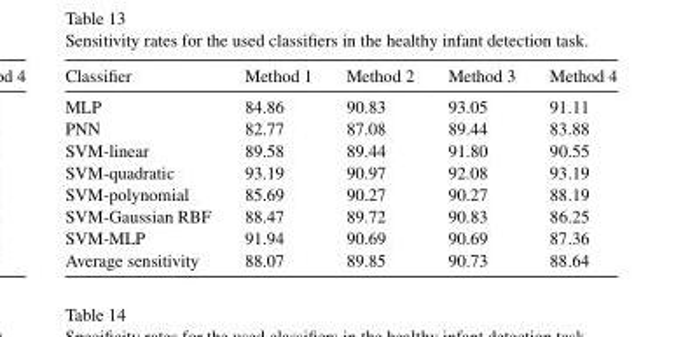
<table><thead><tr><td>Classifier</td><td>Method 1</td><td>Method 2</td><td>Method 3</td><td>Method 4</td></tr></thead><tbody><tr><td>MLP</td><td>84.86</td><td>90.83</td><td>93.05</td><td>91.11</td></tr><tr><td>PNN</td><td>82.77</td><td>87.08</td><td>89.44</td><td>83.88</td></tr><tr><td>SVM-linear</td><td>89.58</td><td>89.44</td><td>91.80</td><td>90.55</td></tr><tr><td>SVM-quadratic</td><td>93.19</td><td>90.97</td><td>92.08</td><td>93.19</td></tr><tr><td>SVM-polynomial</td><td>85.69</td><td>90.27</td><td>90.27</td><td>88.19</td></tr><tr><td>SVM-Gaussian RBF</td><td>88.47</td><td>89.72</td><td>90.83</td><td>86.25</td></tr><tr><td>SVM-MLP</td><td>91.94</td><td>90.69</td><td>90.69</td><td>87.36</td></tr><tr><td>Average sensitivity</td><td>88.07</td><td>89.85</td><td>90.73</td><td>88.64</td></tr></tbody></table>